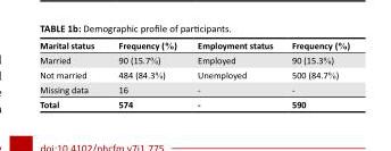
<table><thead><tr><td>Marital status</td><td>Frequency (%)</td><td>Employment status</td><td>Frequency (%)</td></tr></thead><tbody><tr><td>Married</td><td>90 (15.7%)</td><td>Employed</td><td>90 (15.3%)</td></tr><tr><td>Not married</td><td>484 (84.3%)</td><td>Unemployed</td><td>500 (84.7%)</td></tr><tr><td>Missing data</td><td>16</td><td>-</td><td>-</td></tr><tr><td>Total</td><td>574</td><td>-</td><td>590</td></tr></tbody></table>